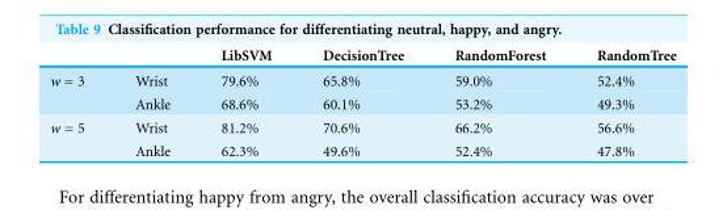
<table><thead><tr><td></td><td></td><td>LibSVM</td><td>DecisionTree</td><td>RandomForest</td><td>RandomTree</td></tr></thead><tbody><tr><td rowspan="2">w = 3</td><td>Wrist</td><td>79.6%</td><td>65.8%</td><td>59.0%</td><td>52.4%</td></tr><tr><td>Ankle</td><td>68.6%</td><td>60.1%</td><td>53.2%</td><td>49.3%</td></tr><tr><td rowspan="2">w = 5</td><td>Wrist</td><td>81.2%</td><td>70.6%</td><td>66.2%</td><td>56.6%</td></tr><tr><td>Ankle</td><td>62.3%</td><td>49.6%</td><td>52.4%</td><td>47.8%</td></tr></tbody></table>